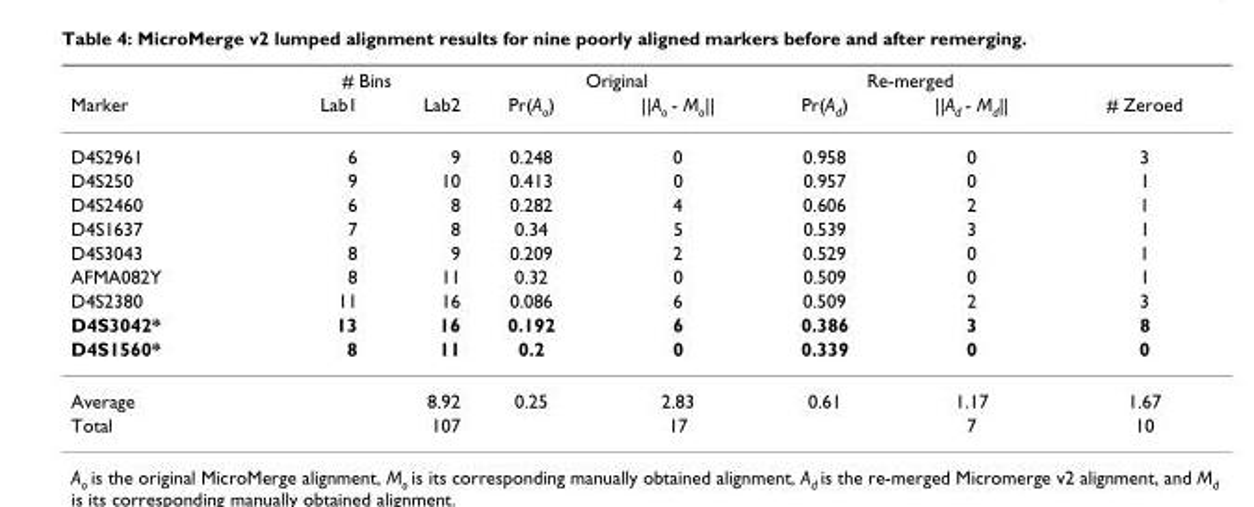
<table><thead><tr><td rowspan="2">Marker</td><td colspan="2"># Bins</td><td colspan="2">Original</td><td colspan="2">Re-merged</td><td rowspan="2"># Zeroed</td></tr><tr><td>Lab1</td><td>Lab2</td><td>Pr(A<sub>o</sub>)</td><td>||A<sub>o</sub> - M<sub>o</sub>||</td><td>Pr(A<sub>d</sub>)</td><td>||A<sub>d</sub> - M<sub>d</sub>||</td></tr></thead><tbody><tr><td>D4S2961</td><td>6</td><td>9</td><td>0.248</td><td>0</td><td>0.958</td><td>0</td><td>3</td></tr><tr><td>D4S250</td><td>9</td><td>10</td><td>0.413</td><td>0</td><td>0.957</td><td>0</td><td>1</td></tr><tr><td>D4S2460</td><td>6</td><td>8</td><td>0.282</td><td>4</td><td>0.606</td><td>2</td><td>1</td></tr><tr><td>D4S1637</td><td>7</td><td>8</td><td>0.34</td><td>5</td><td>0.539</td><td>3</td><td>1</td></tr><tr><td>D4S3043</td><td>8</td><td>9</td><td>0.209</td><td>2</td><td>0.529</td><td>0</td><td>1</td></tr><tr><td>AFMA082Y</td><td>8</td><td>11</td><td>0.32</td><td>0</td><td>0.509</td><td>0</td><td>1</td></tr><tr><td>D4S2380</td><td>11</td><td>16</td><td>0.086</td><td>6</td><td>0.509</td><td>2</td><td>3</td></tr><tr><td>D4S3042*</td><td>13</td><td>16</td><td>0.192</td><td>6</td><td>0.386</td><td>3</td><td>8</td></tr><tr><td>D4S1560*</td><td>8</td><td>11</td><td>0.2</td><td>0</td><td>0.339</td><td>0</td><td>0</td></tr><tr><td>Average</td><td></td><td>8.92</td><td>0.25</td><td>2.83</td><td>0.61</td><td>1.17</td><td>1.67</td></tr><tr><td>Total</td><td></td><td>107</td><td></td><td>17</td><td></td><td>7</td><td>10</td></tr></tbody></table>